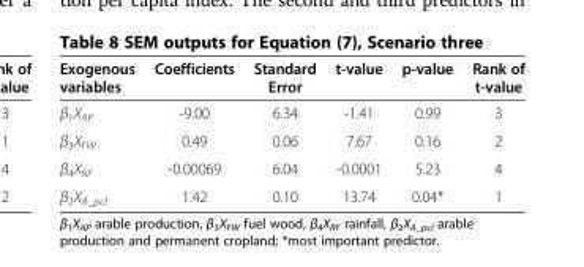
<table><thead><tr><td>Exogenous variables</td><td>Coefficients</td><td>Standard Error</td><td>t-value</td><td>p-value</td><td>Rank of t-value</td></tr></thead><tbody><tr><td>β<sub>1</sub>X<sub>AP</sub></td><td>-9.00</td><td>6.34</td><td>-1.41</td><td>0.99</td><td>3</td></tr><tr><td>β<sub>3</sub>X<sub>FW</sub></td><td>0.49</td><td>0.06</td><td>7.67</td><td>0.16</td><td>2</td></tr><tr><td>β<sub>4</sub>X<sub>RF</sub></td><td>-0.00069</td><td>6.04</td><td>-0.0001</td><td>5.23</td><td>4</td></tr><tr><td>β<sub>2</sub>X<sub>A_pcl</sub></td><td>1.42</td><td>0.10</td><td>13.74</td><td>0.04*</td><td>1</td></tr></tbody></table>